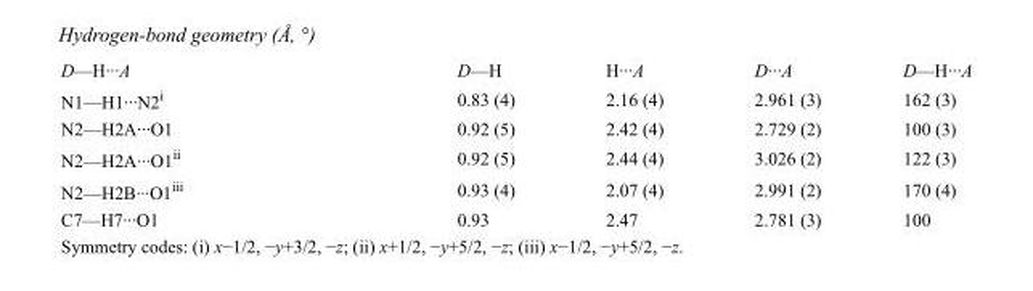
<table><tbody><tr><td>D—H···A</td><td>D—H</td><td>H···A</td><td>D···A</td><td>D—H···A</td></tr><tr><td>N1—H1···N2<sup>i</sup></td><td>0.83 (4)</td><td>2.16 (4)</td><td>2.961 (3)</td><td>162 (3)</td></tr><tr><td>N2—H2A···O1</td><td>0.92 (5)</td><td>2.42 (4)</td><td>2.729 (2)</td><td>100 (3)</td></tr><tr><td>N2—H2A···O1<sup>ii</sup></td><td>0.92 (5)</td><td>2.44 (4)</td><td>3.026 (2)</td><td>122 (3)</td></tr><tr><td>N2—H2B···O1<sup>iii</sup></td><td>0.93 (4)</td><td>2.07 (4)</td><td>2.991 (2)</td><td>170 (4)</td></tr><tr><td>C7—H7···O1</td><td>0.93</td><td>2.47</td><td>2.781 (3)</td><td>100</td></tr></tbody></table>